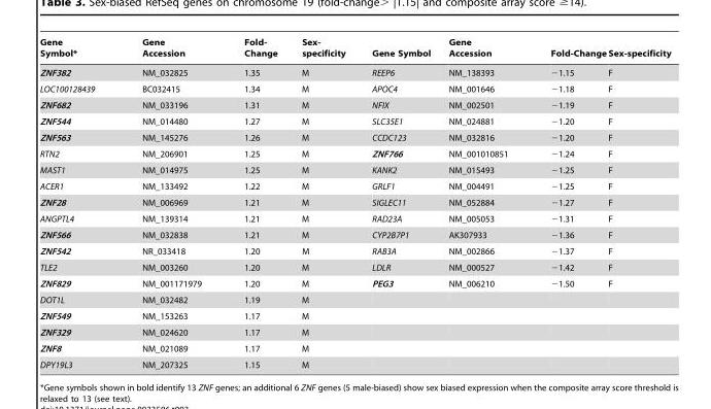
<table><thead><tr><td>Gene Symbol*</td><td>Gene Accession</td><td>Fold- Change</td><td>Sex- specificity</td><td>Gene Symbol</td><td>Gene Accession</td><td>Fold-Change</td><td>Sex-specificity</td></tr></thead><tbody><tr><td>ZNF382</td><td>NM_032825</td><td>1.35</td><td>M</td><td>REEP6</td><td>NM_138393</td><td>−1.15</td><td>F</td></tr><tr><td>LOC100128439</td><td>BC032415</td><td>1.34</td><td>M</td><td>APOC4</td><td>NM_001646</td><td>−1.18</td><td>F</td></tr><tr><td>ZNF682</td><td>NM_033196</td><td>1.31</td><td>M</td><td>NFIX</td><td>NM_002501</td><td>−1.19</td><td>F</td></tr><tr><td>ZNF544</td><td>NM_014480</td><td>1.27</td><td>M</td><td>SLC35E1</td><td>NM_024881</td><td>−1.20</td><td>F</td></tr><tr><td>ZNF563</td><td>NM_145276</td><td>1.26</td><td>M</td><td>CCDC123</td><td>NM_032816</td><td>−1.20</td><td>F</td></tr><tr><td>RTN2</td><td>NM_206901</td><td>1.25</td><td>M</td><td>ZNF766</td><td>NM_001010851</td><td>−1.24</td><td>F</td></tr><tr><td>MAST1</td><td>NM_014975</td><td>1.25</td><td>M</td><td>KANK2</td><td>NM_015493</td><td>−1.25</td><td>F</td></tr><tr><td>ACER1</td><td>NM_133492</td><td>1.22</td><td>M</td><td>GRLF1</td><td>NM_004491</td><td>−1.25</td><td>F</td></tr><tr><td>ZNF28</td><td>NM_006969</td><td>1.21</td><td>M</td><td>SIGLEC11</td><td>NM_052884</td><td>−1.27</td><td>F</td></tr><tr><td>ANGPTL4</td><td>NM_139314</td><td>1.21</td><td>M</td><td>RAD23A</td><td>NM_005053</td><td>−1.31</td><td>F</td></tr><tr><td>ZNF566</td><td>NM_032838</td><td>1.21</td><td>M</td><td>CYP2B7P1</td><td>AK307933</td><td>−1.36</td><td>F</td></tr><tr><td>ZNF542</td><td>NR_033418</td><td>1.20</td><td>M</td><td>RAB3A</td><td>NM_002866</td><td>−1.37</td><td>F</td></tr><tr><td>TLE2</td><td>NM_003260</td><td>1.20</td><td>M</td><td>LDLR</td><td>NM_000527</td><td>−1.42</td><td>F</td></tr><tr><td>ZNF829</td><td>NM_001171979</td><td>1.20</td><td>M</td><td>PEG3</td><td>NM_006210</td><td>−1.50</td><td>F</td></tr><tr><td>DOT1L</td><td>NM_032482</td><td>1.19</td><td>M</td><td></td><td></td><td></td><td></td></tr><tr><td>ZNF549</td><td>NM_153263</td><td>1.17</td><td>M</td><td></td><td></td><td></td><td></td></tr><tr><td>ZNF329</td><td>NM_024620</td><td>1.17</td><td>M</td><td></td><td></td><td></td><td></td></tr><tr><td>ZNF8</td><td>NM_021089</td><td>1.17</td><td>M</td><td></td><td></td><td></td><td></td></tr><tr><td>DPY19L3</td><td>NM_207325</td><td>1.15</td><td>M</td><td></td><td></td><td></td><td></td></tr></tbody></table>